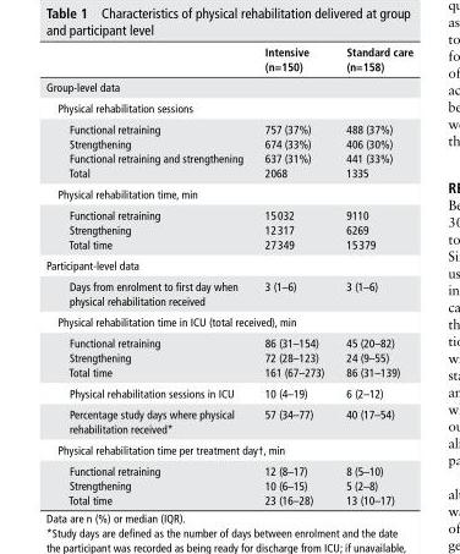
<table><thead><tr><td></td><td>Intensive (n=150)</td><td>standard care (n=158)</td></tr></thead><tbody><tr><td colspan="3">Group-level data</td></tr><tr><td colspan="3">Physical rehabilitation sessions</td></tr><tr><td>Functional retraining Strengthening Functional retraining and strengthening Total</td><td>757 (37%) 674 (33%) 637 (31%) 2068</td><td>488 (37%) 406 (30%) 441 (33%) 1335</td></tr><tr><td colspan="3">Physical rehabilitation time, min</td></tr><tr><td>Functional retraining Strengthening Total time</td><td>15 032 12 317 27 349</td><td>9110 6269 15 379</td></tr><tr><td colspan="3">Participant-level data</td></tr><tr><td>Days from enrolment to first day when physical rehabilitation received</td><td>3 (1–6)</td><td>3 (1–6)</td></tr><tr><td colspan="3">Physical rehabilitation time in ICU (total received), min</td></tr><tr><td>Functional retraining Strengthening Total time</td><td>86 (31–154) 72 (28–123) 161 (67–273)</td><td>45 (20–82) 24 (9–55) 86 (31–139)</td></tr><tr><td>Physical rehabilitation sessions in ICU</td><td>10 (4–19)</td><td>6 (2–12)</td></tr><tr><td>Percentage study days where physical rehabilitation received*</td><td>57 (34–77)</td><td>40 (17–54)</td></tr><tr><td colspan="3">Physical rehabilitation time per treatment day†, min</td></tr><tr><td>Functional retraining Strengthening Total time</td><td>12 (8–17) 10 (6–15) 23 (16–28)</td><td>8 (5–10) 5 (2–8) 13 (10–17)</td></tr></tbody></table>